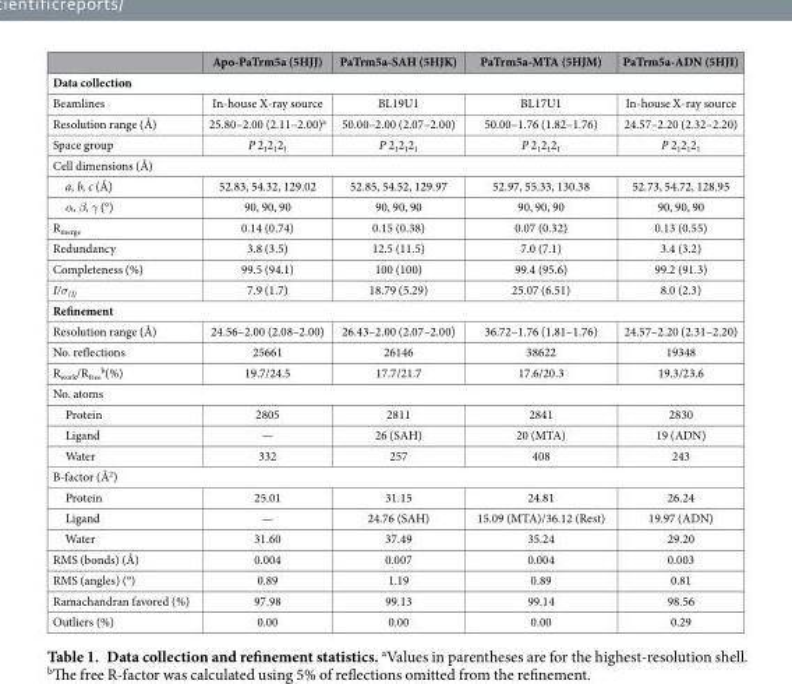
<table><thead><tr><td></td><td>Apo-PaTrm5a (5HJJ)</td><td>PaTrm5a-SAH (5HJK)</td><td>PaTrm5a-MTA (5HJM)</td><td>PaTrm5a-ADN (5HJI)</td></tr></thead><tbody><tr><td colspan="5">Data collection</td></tr><tr><td>Beamlines</td><td>In-house X-ray source</td><td>BL19U1</td><td>BL17U1</td><td>In-house X-ray source</td></tr><tr><td>Resolution range (Å)</td><td>25.80–2.00 (2.11–2.00)<sup>a</sup></td><td>50.00–2.00 (2.07–2.00)</td><td>50.00–1.76 (1.82–1.76)</td><td>24.57–2.20 (2.32–2.20)</td></tr><tr><td>Space group</td><td>P 2<sub>1</sub>2<sub>1</sub>2<sub>1</sub></td><td>P 2<sub>1</sub>2<sub>1</sub>2<sub>1</sub></td><td>P 2<sub>1</sub>2<sub>1</sub>2<sub>1</sub></td><td>P 2<sub>1</sub>2<sub>1</sub>2<sub>1</sub></td></tr><tr><td colspan="5">Cell dimensions (Å)</td></tr><tr><td>a, b, c (Å)</td><td>52.83, 54.32, 129.02</td><td>52.85, 54.52, 129.97</td><td>52.97, 55.33, 130.38</td><td>52.73, 54.72, 128.95</td></tr><tr><td>α, β, γ (°)</td><td>90, 90, 90</td><td>90, 90, 90</td><td>90, 90, 90</td><td>90, 90, 90</td></tr><tr><td>R<sub>merge</sub></td><td>0.14 (0.74)</td><td>0.15 (0.38)</td><td>0.07 (0.32)</td><td>0.13 (0.55)</td></tr><tr><td>Redundancy</td><td>3.8 (3.5)</td><td>12.5 (11.5)</td><td>7.0 (7.1)</td><td>3.4 (3.2)</td></tr><tr><td>Completeness (%)</td><td>99.5 (94.1)</td><td>100 (100)</td><td>99.4 (95.6)</td><td>99.2 (91.3)</td></tr><tr><td>I/σ<sub>(I)</sub></td><td>7.9 (1.7)</td><td>18.79 (5.29)</td><td>25.07 (6.51)</td><td>8.0 (2.3)</td></tr><tr><td colspan="5">Refinement</td></tr><tr><td>Resolution range (Å)</td><td>24.56–2.00 (2.08–2.00)</td><td>26.43–2.00 (2.07–2.00)</td><td>36.72–1.76 (1.81–1.76)</td><td>24.57–2.20 (2.31–2.20)</td></tr><tr><td>No. reflections</td><td>25661</td><td>26146</td><td>38622</td><td>19348</td></tr><tr><td>R<sub>work</sub>/R<sub>free</sub> <sup>b</sup>(%)</td><td>19.7/24.5</td><td>17.7/21.7</td><td>17.6/20.3</td><td>19.3/23.6</td></tr><tr><td colspan="5">No. atoms</td></tr><tr><td>Protein</td><td>2805</td><td>2811</td><td>2841</td><td>2830</td></tr><tr><td>Ligand</td><td>—</td><td>26 (SAH)</td><td>20 (MTA)</td><td>19 (ADN)</td></tr><tr><td>Water</td><td>332</td><td>257</td><td>408</td><td>243</td></tr><tr><td colspan="5">B-factor (Å<sup>2</sup>)</td></tr><tr><td>Protein</td><td>25.01</td><td>31.15</td><td>24.81</td><td>26.24</td></tr><tr><td>Ligand</td><td>—</td><td>24.76 (SAH)</td><td>15.09 (MTA)/36.12 (Rest)</td><td>19.97 (ADN)</td></tr><tr><td>Water</td><td>31.60</td><td>37.49</td><td>35.24</td><td>29.20</td></tr><tr><td>RMS (bonds) (Å)</td><td>0.004</td><td>0.007</td><td>0.004</td><td>0.003</td></tr><tr><td>RMS (angles) (°)</td><td>0.89</td><td>1.19</td><td>0.89</td><td>0.81</td></tr><tr><td>Ramachandran favored (%)</td><td>97.98</td><td>99.13</td><td>99.14</td><td>98.56</td></tr><tr><td>Outliers (%)</td><td>0.00</td><td>0.00</td><td>0.00</td><td>0.29</td></tr></tbody></table>